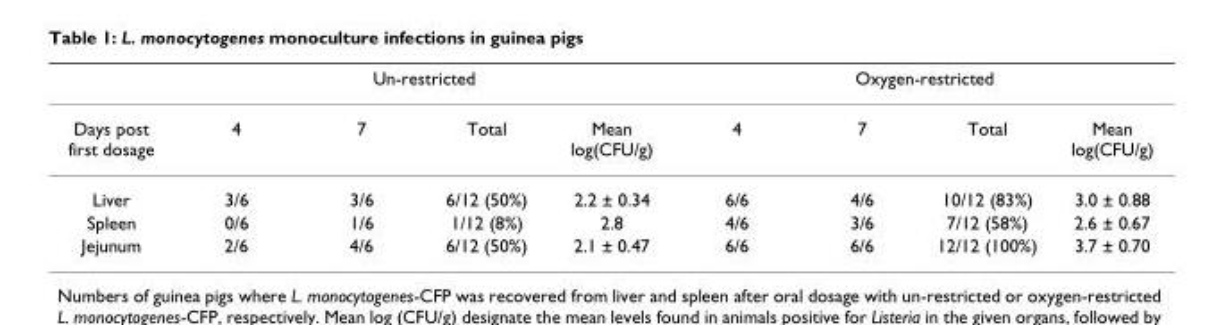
<table><thead><tr><td rowspan="2">Days post first dosage</td><td colspan="4">Un-restricted</td><td colspan="4">Oxygen-restricted</td></tr><tr><td>4</td><td>7</td><td>Total</td><td>Mean log(CFU/g)</td><td>4</td><td>7</td><td>Total</td><td>Mean log(CFU/g)</td></tr></thead><tbody><tr><td>Liver</td><td>3/6</td><td>3/6</td><td>6/12 (50%)</td><td>2.2 ± 0.34</td><td>6/6</td><td>4/6</td><td>10/12 (83%)</td><td>3.0 ± 0.88</td></tr><tr><td>Spleen</td><td>0/6</td><td>1/6</td><td>1/12 (8%)</td><td>2.8</td><td>4/6</td><td>3/6</td><td>7/12 (58%)</td><td>2.6 ± 0.67</td></tr><tr><td>Jejunum</td><td>2/6</td><td>4/6</td><td>6/12 (50%)</td><td>2.1 ± 0.47</td><td>6/6</td><td>6/6</td><td>12/12 (100%)</td><td>3.7 ± 0.70</td></tr></tbody></table>